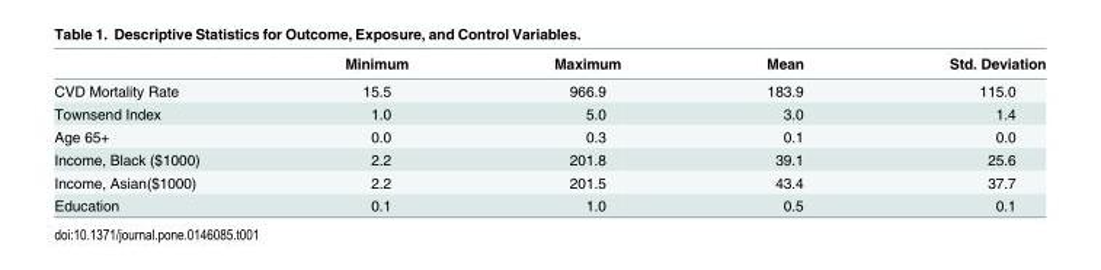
<table><thead><tr><td></td><td>Minimum</td><td>Maximum</td><td>Mean</td><td>Std. Deviation</td></tr></thead><tbody><tr><td>CVD Mortality Rate</td><td>15.5</td><td>966.9</td><td>183.9</td><td>115.0</td></tr><tr><td>Townsend Index</td><td>1.0</td><td>5.0</td><td>3.0</td><td>1.4</td></tr><tr><td>Age 65+</td><td>0.0</td><td>0.3</td><td>0.1</td><td>0.0</td></tr><tr><td>Income, Black ($1000)</td><td>2.2</td><td>201.8</td><td>39.1</td><td>25.6</td></tr><tr><td>Income, Asian($1000)</td><td>2.2</td><td>201.5</td><td>43.4</td><td>37.7</td></tr><tr><td>Education</td><td>0.1</td><td>1.0</td><td>0.5</td><td>0.1</td></tr></tbody></table>